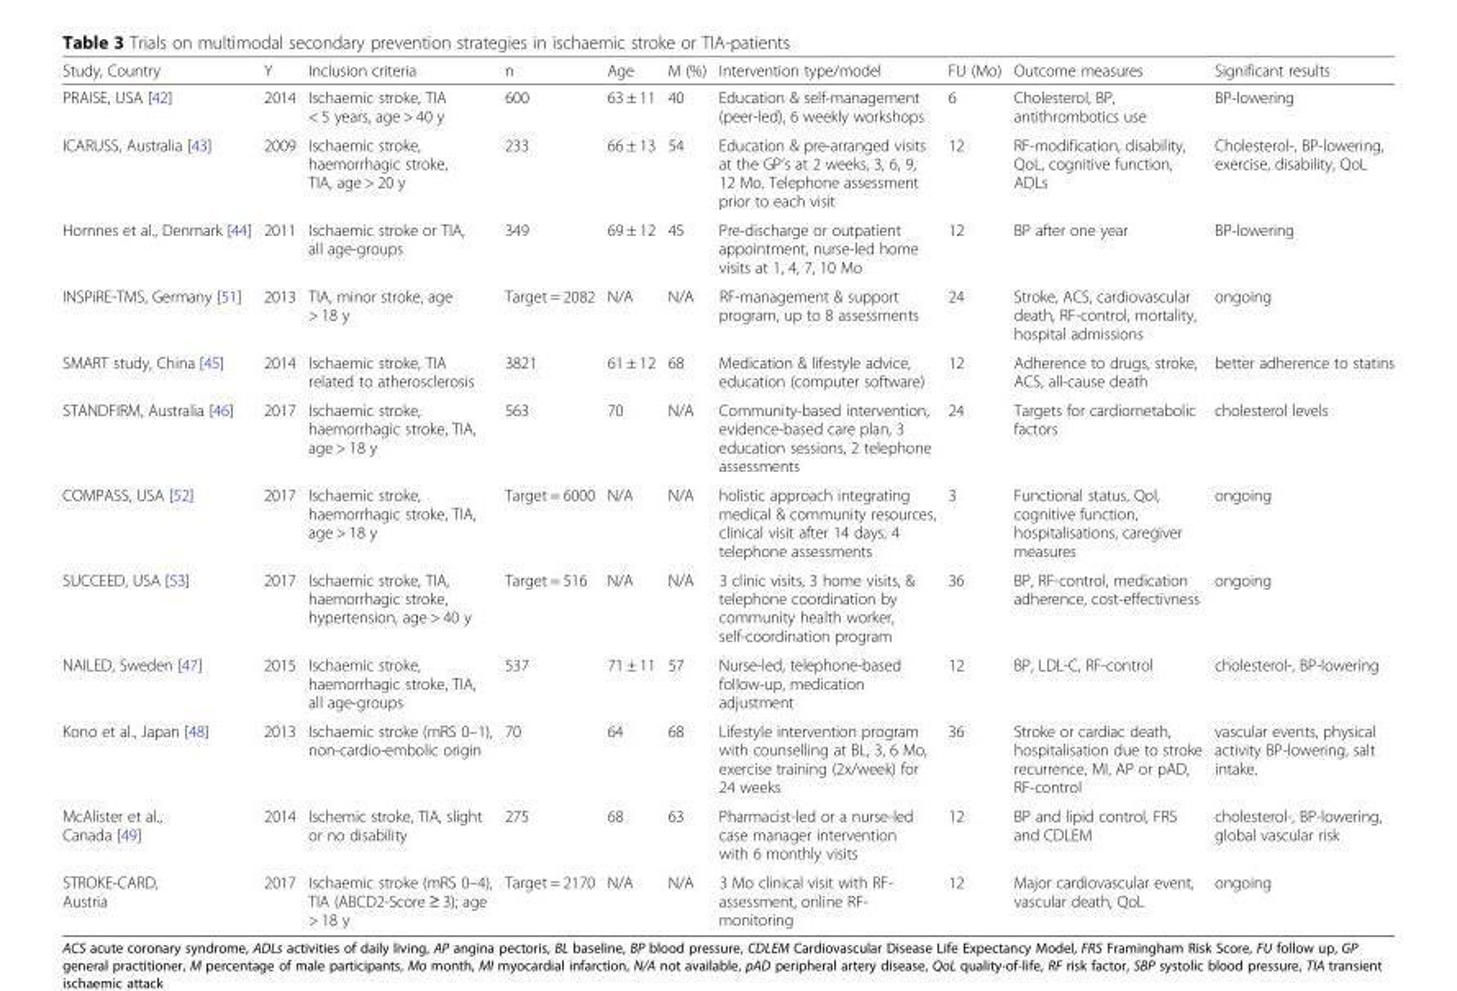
<table><thead><tr><td>Study, Country</td><td>Y</td><td>Inclusion criteria</td><td>n</td><td>Age</td><td>M (%)</td><td>Intervention type/model</td><td>FU (Mo)</td><td>Outcome measures</td><td>Significant results</td></tr></thead><tbody><tr><td>PRAISE, USA [42]</td><td>2014</td><td>Ischaemic stroke, TIA &lt; 5 years, age &gt; 40 y</td><td>600</td><td>63 ± 11</td><td>40</td><td>Education &amp; self-management (peer-led), 6 weekly workshops</td><td>6</td><td>Cholesterol, BP, antithrombotics use</td><td>BP-lowering</td></tr><tr><td>ICARUSS, Australia [43]</td><td>2009</td><td>Ischaemic stroke, haemorrhagic stroke, TIA, age &gt; 20 y</td><td>233</td><td>66 ± 13</td><td>54</td><td>Education &amp; pre-arranged visits at the GP’s at 2 weeks, 3, 6, 9, 12 Mo. Telephone assessment prior to each visit</td><td>12</td><td>RF-modification, disability, QoL, cognitive function, ADLs</td><td>Cholesterol-, BP-lowering, exercise, disability, QoL</td></tr><tr><td>Hornnes et al., Denmark [44]</td><td>2011</td><td>Ischaemic stroke or TIA, all age-groups</td><td>349</td><td>69 ± 12</td><td>45</td><td>Pre-discharge or outpatient appointment, nurse-led home visits at 1, 4, 7, 10 Mo</td><td>12</td><td>BP after one year</td><td>BP-lowering</td></tr><tr><td>INSPiRE-TMS, Germany [51]</td><td>2013</td><td>TIA, minor stroke, age &gt; 18 y</td><td>Target = 2082</td><td>N/A</td><td>N/A</td><td>RF-management &amp; support program, up to 8 assessments</td><td>24</td><td>Stroke, ACS, cardiovascular death, RF-control, mortality, hospital admissions</td><td>ongoing</td></tr><tr><td>SMART study, China [45]</td><td>2014</td><td>Ischaemic stroke, TIA related to atherosclerosis</td><td>3821</td><td>61 ± 12</td><td>68</td><td>Medication &amp; lifestyle advice, education (computer software)</td><td>12</td><td>Adherence to drugs, stroke, ACS, all-cause death</td><td>better adherence to statins</td></tr><tr><td>STANDFIRM, Australia [46]</td><td>2017</td><td>Ischaemic stroke, haemorrhagic stroke, TIA, age &gt; 18 y</td><td>563</td><td>70</td><td>N/A</td><td>Community-based intervention, evidence-based care plan, 3 education sessions, 2 telephone assessments</td><td>24</td><td>Targets for cardiometabolic factors</td><td>cholesterol levels</td></tr><tr><td>COMPASS, USA [52]</td><td>2017</td><td>Ischaemic stroke, haemorrhagic stroke, TIA, age &gt; 18 y</td><td>Target = 6000</td><td>N/A</td><td>N/A</td><td>holistic approach integrating medical &amp; community resources, clinical visit after 14 days, 4 telephone assessments</td><td>3</td><td>Functional status, Qol, cognitive function, hospitalisations, caregiver measures</td><td>ongoing</td></tr><tr><td>SUCCEED, USA [53]</td><td>2017</td><td>Ischaemic stroke, TIA, haemorrhagic stroke, hypertension, age &gt; 40 y</td><td>Target = 516</td><td>N/A</td><td>N/A</td><td>3 clinic visits, 3 home visits, &amp; telephone coordination by community health worker, self-coordination program</td><td>36</td><td>BP, RF-control, medication adherence, cost-effectivness</td><td>ongoing</td></tr><tr><td>NAILED, Sweden [47]</td><td>2015</td><td>Ischaemic stroke, haemorrhagic stroke, TIA, all age-groups</td><td>537</td><td>71 ± 11</td><td>57</td><td>Nurse-led, telephone-based follow-up, medication adjustment</td><td>12</td><td>BP, LDL-C, RF-control</td><td>cholesterol-, BP-lowering</td></tr><tr><td>Kono et al., Japan [48]</td><td>2013</td><td>Ischaemic stroke (mRS 0–1), non-cardio-embolic origin</td><td>70</td><td>64</td><td>68</td><td>Lifestyle intervention program with counselling at BL, 3, 6 Mo, exercise training (2x/week) for 24 weeks</td><td>36</td><td>Stroke or cardiac death, hospitalisation due to stroke recurrence, MI, AP or pAD, RF-control</td><td>vascular events, physical activity BP-lowering, salt intake.</td></tr><tr><td>McAlister et al., Canada [49]</td><td>2014</td><td>Ischemic stroke, TIA, slight or no disability</td><td>275</td><td>68</td><td>63</td><td>Pharmacist-led or a nurse-led case manager intervention with 6 monthly visits</td><td>12</td><td>BP and lipid control, FRS and CDLEM</td><td>cholesterol-, BP-lowering, global vascular risk</td></tr><tr><td>STROKE-CARD, Austria</td><td>2017</td><td>Ischaemic stroke (mRS 0–4), TIA (ABCD2-Score ≥ 3); age &gt; 18 y</td><td>Target = 2170</td><td>N/A</td><td>N/A</td><td>3 Mo clinical visit with RF- assessment, online RF- monitoring</td><td>12</td><td>Major cardiovascular event, vascular death, QoL</td><td>ongoing</td></tr></tbody></table>